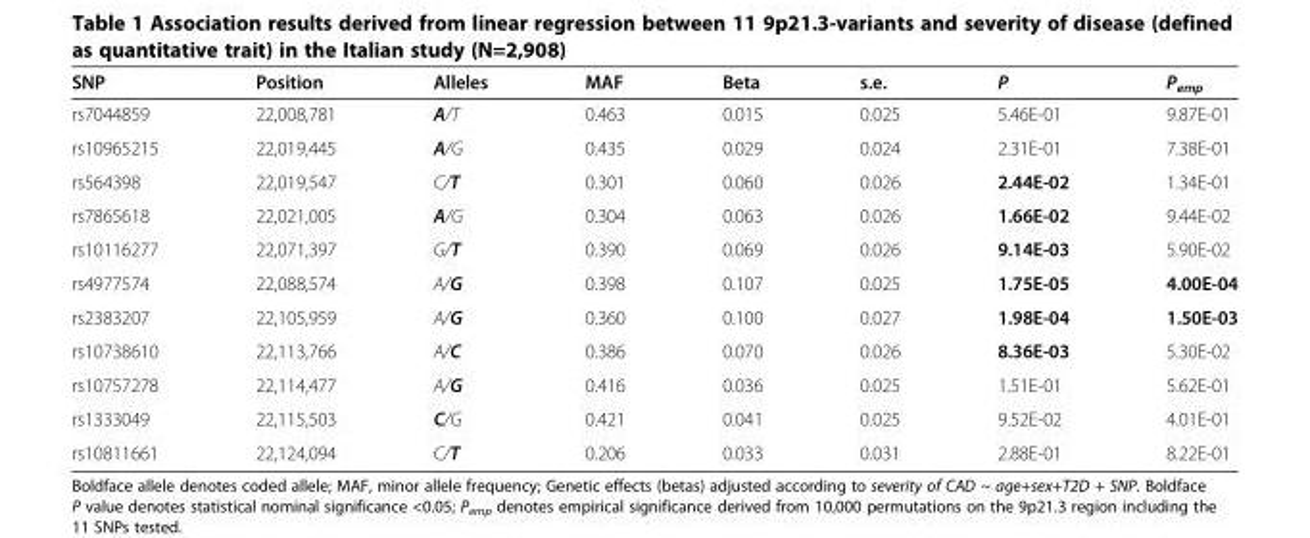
<table><thead><tr><td>SNP</td><td>Position</td><td>Alleles</td><td>MAF</td><td>Beta</td><td>s.e.</td><td>P</td><td>P<sub>emp</sub></td></tr></thead><tbody><tr><td>rs7044859</td><td>22,008,781</td><td>A/T</td><td>0.463</td><td>0.015</td><td>0.025</td><td>5.46E-01</td><td>9.87E-01</td></tr><tr><td>rs10965215</td><td>22,019,445</td><td>A/G</td><td>0.435</td><td>0.029</td><td>0.024</td><td>2.31E-01</td><td>7.38E-01</td></tr><tr><td>rs564398</td><td>22,019,547</td><td>C/T</td><td>0.301</td><td>0.060</td><td>0.026</td><td>2.44E-02</td><td>1.34E-01</td></tr><tr><td>rs7865618</td><td>22,021,005</td><td>A/G</td><td>0.304</td><td>0.063</td><td>0.026</td><td>1.66E-02</td><td>9.44E-02</td></tr><tr><td>rs10116277</td><td>22,071,397</td><td>G/T</td><td>0.390</td><td>0.069</td><td>0.026</td><td>9.14E-03</td><td>5.90E-02</td></tr><tr><td>rs4977574</td><td>22,088,574</td><td>A/G</td><td>0.398</td><td>0.107</td><td>0.025</td><td>1.75E-05</td><td>4.00E-04</td></tr><tr><td>rs2383207</td><td>22,105,959</td><td>A/G</td><td>0.360</td><td>0.100</td><td>0.027</td><td>1.98E-04</td><td>1.50E-03</td></tr><tr><td>rs10738610</td><td>22,113,766</td><td>A/C</td><td>0.386</td><td>0.070</td><td>0.026</td><td>8.36E-03</td><td>5.30E-02</td></tr><tr><td>rs10757278</td><td>22,114,477</td><td>A/G</td><td>0.416</td><td>0.036</td><td>0.025</td><td>1.51E-01</td><td>5.62E-01</td></tr><tr><td>rs1333049</td><td>22,115,503</td><td>C/G</td><td>0.421</td><td>0.041</td><td>0.025</td><td>9.52E-02</td><td>4.01E-01</td></tr><tr><td>rs10811661</td><td>22,124,094</td><td>C/T</td><td>0.206</td><td>0.033</td><td>0.031</td><td>2.88E-01</td><td>8.22E-01</td></tr></tbody></table>